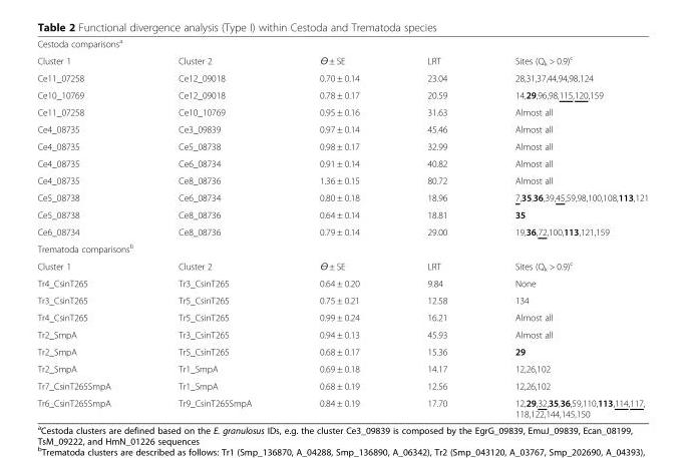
<table><tbody><tr><td colspan="5">Cestoda comparisons<sup>a</sup></td></tr><tr><td>Cluster 1</td><td>Cluster 2</td><td>Ɵ ± SE</td><td>LRT</td><td>Sites (Q<sub>k</sub> &gt; 0.9)<sup>c</sup></td></tr><tr><td>Ce11_07258</td><td>Ce12_09018</td><td>0.70 ± 0.14</td><td>23.04</td><td>28,31,37,44,94,98,124</td></tr><tr><td>Ce10_10769</td><td>Ce12_09018</td><td>0.78 ± 0.17</td><td>20.59</td><td>14,29,96,98,115,120,159</td></tr><tr><td>Ce11_07258</td><td>Ce10_10769</td><td>0.95 ± 0.16</td><td>31.63</td><td>Almost all</td></tr><tr><td>Ce4_08735</td><td>Ce3_09839</td><td>0.97 ± 0.14</td><td>45.46</td><td>Almost all</td></tr><tr><td>Ce4_08735</td><td>Ce5_08738</td><td>0.98 ± 0.17</td><td>32.99</td><td>Almost all</td></tr><tr><td>Ce4_08735</td><td>Ce6_08734</td><td>0.91 ± 0.14</td><td>40.82</td><td>Almost all</td></tr><tr><td>Ce4_08735</td><td>Ce8_08736</td><td>1.36 ± 0.15</td><td>80.72</td><td>Almost all</td></tr><tr><td>Ce5_08738</td><td>Ce6_08734</td><td>0.80 ± 0.18</td><td>18.96</td><td>7,35,36,39,45,59,98,100,108,113,121</td></tr><tr><td>Ce5_08738</td><td>Ce8_08736</td><td>0.64 ± 0.14</td><td>18.81</td><td>35</td></tr><tr><td>Ce6_08734</td><td>Ce8_08736</td><td>0.79 ± 0.14</td><td>29.00</td><td>19,36,72,100,113,121,159</td></tr><tr><td colspan="5">Trematoda comparisons<sup>b</sup></td></tr><tr><td>Cluster 1</td><td>Cluster 2</td><td>Ɵ ± SE</td><td>LRT</td><td>Sites (Q<sub>k</sub> &gt; 0.9)<sup>c</sup></td></tr><tr><td>Tr4_CsinT265</td><td>Tr3_CsinT265</td><td>0.64 ± 0.20</td><td>9.84</td><td>None</td></tr><tr><td>Tr3_CsinT265</td><td>Tr5_CsinT265</td><td>0.75 ± 0.21</td><td>12.58</td><td>134</td></tr><tr><td>Tr4_CsinT265</td><td>Tr5_CsinT265</td><td>0.99 ± 0.24</td><td>16.21</td><td>Almost all</td></tr><tr><td>Tr2_SmpA</td><td>Tr3_CsinT265</td><td>0.94 ± 0.13</td><td>45.93</td><td>Almost all</td></tr><tr><td>Tr2_SmpA</td><td>Tr5_CsinT265</td><td>0.68 ± 0.17</td><td>15.36</td><td>29</td></tr><tr><td>Tr2_SmpA</td><td>Tr1_SmpA</td><td>0.69 ± 0.18</td><td>14.17</td><td>12,26,102</td></tr><tr><td>Tr7_CsinT265SmpA</td><td>Tr1_SmpA</td><td>0.68 ± 0.19</td><td>12.56</td><td>12,26,102</td></tr><tr><td>Tr6_CsinT265SmpA</td><td>Tr9_CsinT265SmpA</td><td>0.84 ± 0.19</td><td>17.70</td><td>12,29,32,35,36,59,110,113,114,117, 118,122,144,145,150</td></tr></tbody></table>